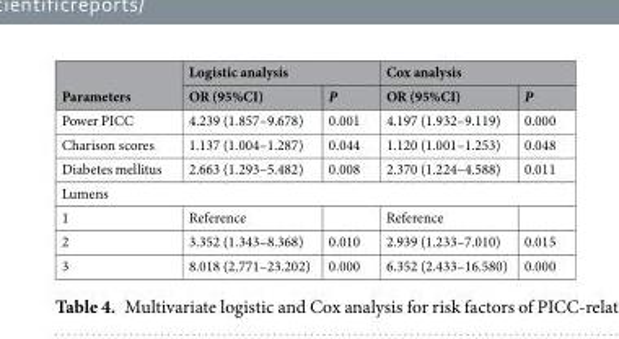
<table><thead><tr><td rowspan="2">Parameters</td><td colspan="2">Logistic analysis</td><td colspan="2">Cox analysis</td></tr><tr><td>OR (95%CI)</td><td>P</td><td>OR (95%CI)</td><td>P</td></tr></thead><tbody><tr><td>Power PICC</td><td>4.239 (1.857–9.678)</td><td>0.001</td><td>4.197 (1.932–9.119)</td><td>0.000</td></tr><tr><td>Charison scores</td><td>1.137 (1.004–1.287)</td><td>0.044</td><td>1.120 (1.001–1.253)</td><td>0.048</td></tr><tr><td>Diabetes mellitus</td><td>2.663 (1.293–5.482)</td><td>0.008</td><td>2.370 (1.224–4.588)</td><td>0.011</td></tr><tr><td colspan="5">Lumens</td></tr><tr><td>1</td><td>Reference</td><td></td><td>Reference</td><td></td></tr><tr><td>2</td><td>3.352 (1.343–8.368)</td><td>0.010</td><td>2.939 (1.233–7.010)</td><td>0.015</td></tr><tr><td>3</td><td>8.018 (2.771–23.202)</td><td>0.000</td><td>6.352 (2.433–16.580)</td><td>0.000</td></tr></tbody></table>